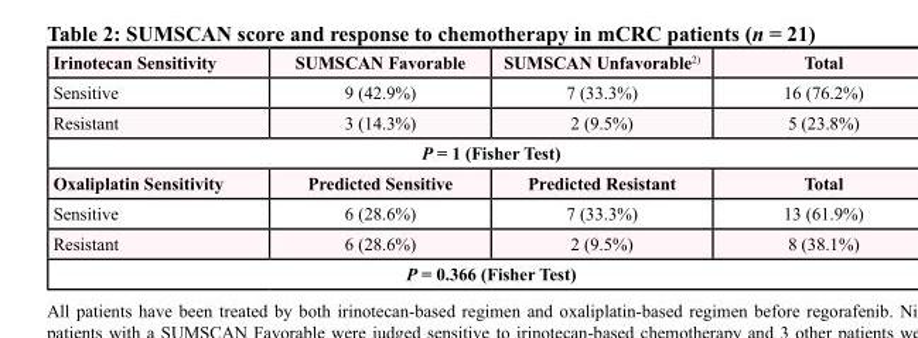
<table><thead><tr><td>Irinotecan Sensitivity</td><td>SUMSCAN Favorable</td><td>SUMSCAN Unfavorable<sup>2)</sup></td><td>Total</td></tr></thead><tbody><tr><td>Sensitive</td><td>9 (42.9%)</td><td>7 (33.3%)</td><td>16 (76.2%)</td></tr><tr><td>Resistant</td><td>3 (14.3%)</td><td>2 (9.5%)</td><td>5 (23.8%)</td></tr><tr><td colspan="4">P = 1 (Fisher Test)</td></tr><tr><td>Oxaliplatin Sensitivity</td><td>Predicted Sensitive</td><td>Predicted Resistant</td><td>Total</td></tr><tr><td>Sensitive</td><td>6 (28.6%)</td><td>7 (33.3%)</td><td>13 (61.9%)</td></tr><tr><td>Resistant</td><td>6 (28.6%)</td><td>2 (9.5%)</td><td>8 (38.1%)</td></tr><tr><td colspan="4">P = 0.366 (Fisher Test)</td></tr></tbody></table>